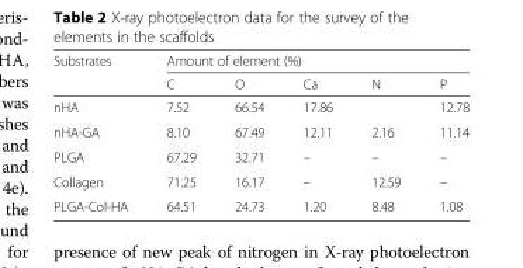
<table><thead><tr><td rowspan="2">Substrates</td><td colspan="5">Amount of element (%)</td></tr><tr><td>C</td><td>O</td><td>Ca</td><td>N</td><td>P</td></tr></thead><tbody><tr><td>nHA</td><td>7.52</td><td>66.54</td><td>17.86</td><td></td><td>12.78</td></tr><tr><td>nHA-GA</td><td>8.10</td><td>67.49</td><td>12.11</td><td>2.16</td><td>11.14</td></tr><tr><td>PLGA</td><td>67.29</td><td>32.71</td><td>–</td><td>–</td><td>–</td></tr><tr><td>Collagen</td><td>71.25</td><td>16.17</td><td>–</td><td>12.59</td><td>–</td></tr><tr><td>PLGA-Col-HA</td><td>64.51</td><td>24.73</td><td>1.20</td><td>8.48</td><td>1.08</td></tr></tbody></table>